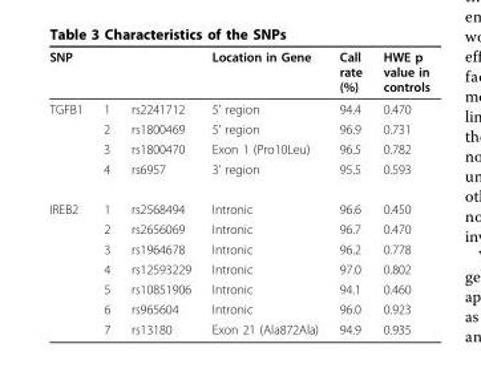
<table><thead><tr><td colspan="3">SNP</td><td rowspan="2">Location in Gene 5’ region</td><td rowspan="2">Call rate (%) 94.4</td><td rowspan="2">HWE p value in controls 0.470</td></tr><tr><td>TGFB1</td><td>1</td><td>rs2241712</td></tr></thead><tbody><tr><td></td><td>2</td><td>rs1800469</td><td>5’ region</td><td>96.9</td><td>0.731</td></tr><tr><td></td><td>3</td><td>rs1800470</td><td>Exon 1 (Pro10Leu)</td><td>96.5</td><td>0.782</td></tr><tr><td></td><td>4</td><td>rs6957</td><td>3’ region</td><td>95.5</td><td>0.593</td></tr><tr><td rowspan="7">IREB2</td><td>1</td><td>rs2568494</td><td>Intronic</td><td>96.6</td><td>0.450</td></tr><tr><td>2</td><td>rs2656069</td><td>Intronic</td><td>96.7</td><td>0.470</td></tr><tr><td>3</td><td>rs1964678</td><td>Intronic</td><td>96.2</td><td>0.778</td></tr><tr><td>4</td><td>rs12593229</td><td>Intronic</td><td>97.0</td><td>0.802</td></tr><tr><td>5</td><td>rs10851906</td><td>Intronic</td><td>94.1</td><td>0.460</td></tr><tr><td>6</td><td>rs965604</td><td>Intronic</td><td>96.0</td><td>0.923</td></tr><tr><td>7</td><td>rs13180</td><td>Exon 21 (Ala872Ala)</td><td>94.9</td><td>0.935</td></tr></tbody></table>